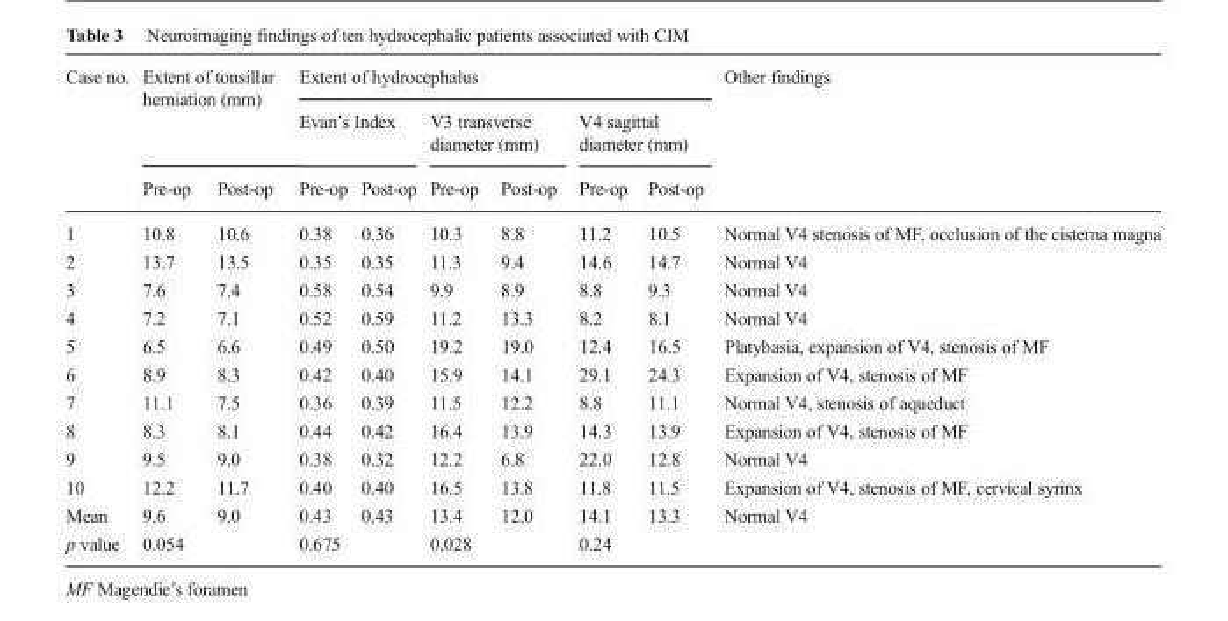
<table><thead><tr><td rowspan="3">Case no.</td><td rowspan="2" colspan="2">Extent of tonsillar herniation (mm)</td><td colspan="6">Extent of hydrocephalus</td><td rowspan="3">Other findings</td></tr><tr><td colspan="2">Evan’s Index</td><td colspan="2">V3 transverse diameter (mm)</td><td colspan="2">V4 sagittal diameter (mm)</td></tr><tr><td>Pre-op</td><td>Post-op</td><td>Pre-op</td><td>Post-op</td><td>Pre-op</td><td>Post-op</td><td>Pre-op</td><td>Post-op</td></tr></thead><tbody><tr><td>1</td><td>10.8</td><td>10.6</td><td>0.38</td><td>0.36</td><td>10.3</td><td>8.8</td><td>11.2</td><td>10.5</td><td>Normal V4 stenosis of MF, occlusion of the cisterna magna</td></tr><tr><td>2</td><td>13.7</td><td>13.5</td><td>0.35</td><td>0.35</td><td>11.3</td><td>9.4</td><td>14.6</td><td>14.7</td><td>Normal V4</td></tr><tr><td>3</td><td>7.6</td><td>7.4</td><td>0.58</td><td>0.54</td><td>9.9</td><td>8.9</td><td>8.8</td><td>9.3</td><td>Normal V4</td></tr><tr><td>4</td><td>7.2</td><td>7.1</td><td>0.52</td><td>0.59</td><td>11.2</td><td>13.3</td><td>8.2</td><td>8.1</td><td>Normal V4</td></tr><tr><td>5</td><td>6.5</td><td>6.6</td><td>0.49</td><td>0.50</td><td>19.2</td><td>19.0</td><td>12.4</td><td>16.5</td><td>Platybasia, expansion of V4, stenosis of MF</td></tr><tr><td>6</td><td>8.9</td><td>8.3</td><td>0.42</td><td>0.40</td><td>15.9</td><td>14.1</td><td>29.1</td><td>24.3</td><td>Expansion of V4, stenosis of MF</td></tr><tr><td>7</td><td>11.1</td><td>7.5</td><td>0.36</td><td>0.39</td><td>11.5</td><td>12.2</td><td>8.8</td><td>11.1</td><td>Normal V4, stenosis of aqueduct</td></tr><tr><td>8</td><td>8.3</td><td>8.1</td><td>0.44</td><td>0.42</td><td>16.4</td><td>13.9</td><td>14.3</td><td>13.9</td><td>Expansion of V4, stenosis of MF</td></tr><tr><td>9</td><td>9.5</td><td>9.0</td><td>0.38</td><td>0.32</td><td>12.2</td><td>6.8</td><td>22.0</td><td>12.8</td><td>Normal V4</td></tr><tr><td>10</td><td>12.2</td><td>11.7</td><td>0.40</td><td>0.40</td><td>16.5</td><td>13.8</td><td>11.8</td><td>11.5</td><td>Expansion of V4, stenosis of MF, cervical syrinx</td></tr><tr><td>Mean</td><td>9.6</td><td>9.0</td><td>0.43</td><td>0.43</td><td>13.4</td><td>12.0</td><td>14.1</td><td>13.3</td><td>Normal V4</td></tr><tr><td>p value</td><td>0.054</td><td></td><td>0.675</td><td></td><td>0.028</td><td></td><td>0.24</td><td></td><td></td></tr></tbody></table>